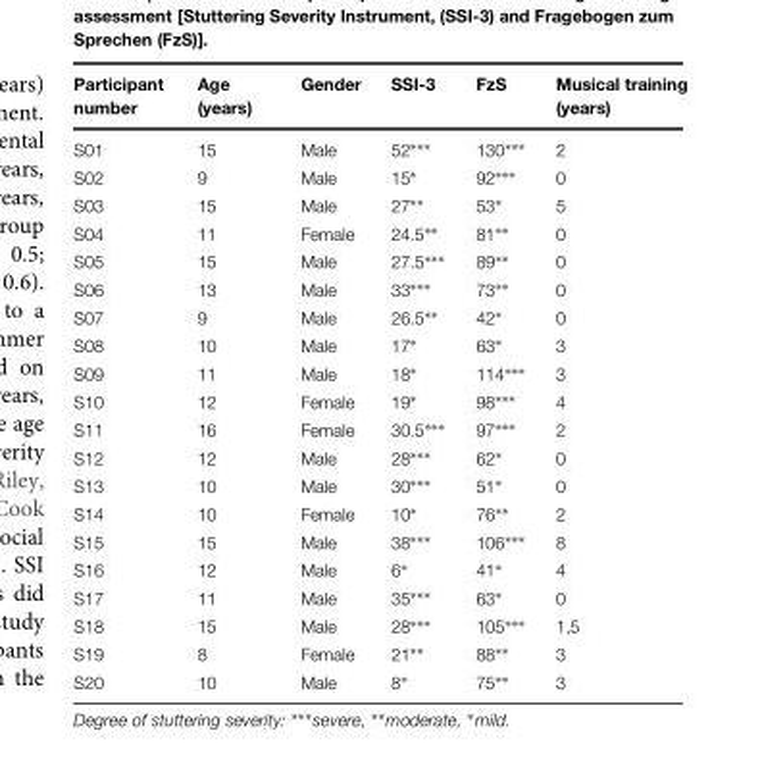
<table><thead><tr><td>Participant number</td><td>Age (years)</td><td>Gender</td><td>SSI-3</td><td>FzS</td><td>Musical training (years)</td></tr></thead><tbody><tr><td>S01</td><td>15</td><td>Male</td><td>52∗∗∗</td><td>130∗∗∗</td><td>2</td></tr><tr><td>S02</td><td>9</td><td>Male</td><td>15∗</td><td>92∗∗∗</td><td>0</td></tr><tr><td>S03</td><td>15</td><td>Male</td><td>27∗∗</td><td>53∗</td><td>5</td></tr><tr><td>S04</td><td>11</td><td>Female</td><td>24.5∗∗</td><td>81∗∗</td><td>0</td></tr><tr><td>S05</td><td>15</td><td>Male</td><td>27.5∗∗∗</td><td>89∗∗</td><td>0</td></tr><tr><td>S06</td><td>13</td><td>Male</td><td>33∗∗∗</td><td>73∗∗</td><td>0</td></tr><tr><td>S07</td><td>9</td><td>Male</td><td>26.5∗∗</td><td>42∗</td><td>0</td></tr><tr><td>S08</td><td>10</td><td>Male</td><td>17∗</td><td>63∗</td><td>3</td></tr><tr><td>S09</td><td>11</td><td>Male</td><td>18∗</td><td>114∗∗∗</td><td>3</td></tr><tr><td>S10</td><td>12</td><td>Female</td><td>19∗</td><td>98∗∗∗</td><td>4</td></tr><tr><td>S11</td><td>16</td><td>Female</td><td>30.5∗∗∗</td><td>97∗∗∗</td><td>2</td></tr><tr><td>S12</td><td>12</td><td>Male</td><td>28∗∗∗</td><td>62∗</td><td>0</td></tr><tr><td>S13</td><td>10</td><td>Male</td><td>30∗∗∗</td><td>51∗</td><td>0</td></tr><tr><td>S14</td><td>10</td><td>Female</td><td>10∗</td><td>76∗∗</td><td>2</td></tr><tr><td>S15</td><td>15</td><td>Male</td><td>38∗∗∗</td><td>106∗∗∗</td><td>8</td></tr><tr><td>S16</td><td>12</td><td>Male</td><td>6∗</td><td>41∗</td><td>4</td></tr><tr><td>S17</td><td>11</td><td>Male</td><td>35∗∗∗</td><td>63∗</td><td>0</td></tr><tr><td>S18</td><td>15</td><td>Male</td><td>28∗∗∗</td><td>105∗∗∗</td><td>1,5</td></tr><tr><td>S19</td><td>8</td><td>Female</td><td>21∗∗</td><td>88∗∗</td><td>3</td></tr><tr><td>S20</td><td>10</td><td>Male</td><td>8∗</td><td>75∗∗</td><td>3</td></tr></tbody></table>